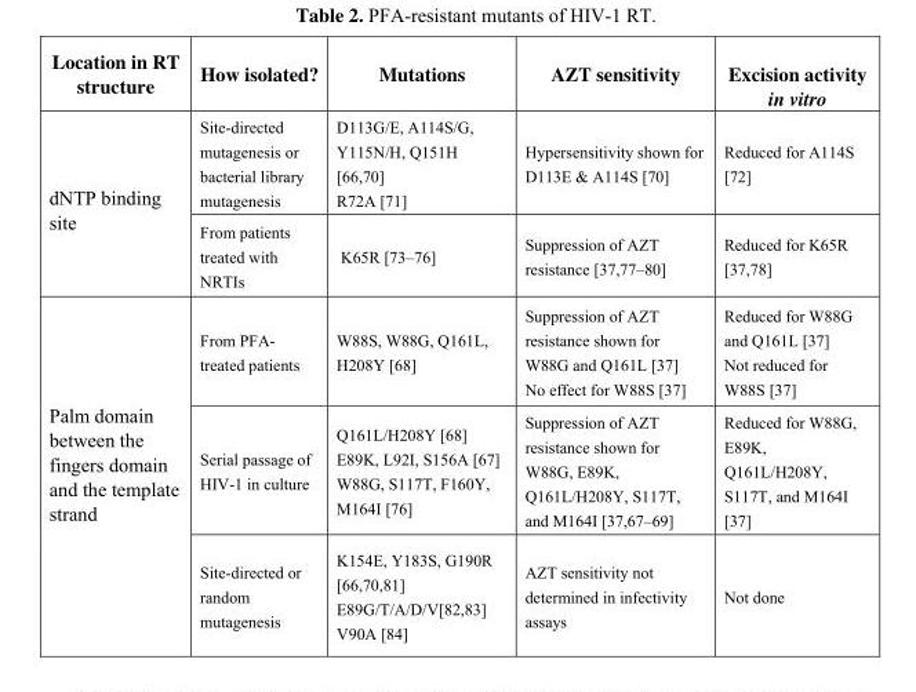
<table><thead><tr><td>Location in RT structure</td><td>How isolated?</td><td>Mutations</td><td>AZT sensitivity</td><td>Excision activity in vitro</td></tr></thead><tbody><tr><td rowspan="2">dNTP binding site</td><td>Site-directed mutagenesis or bacterial library mutagenesis</td><td>D113G/E, A114S/G, Y115N/H, Q151H [66,70] R72A [71]</td><td>Hypersensitivity shown for D113E &amp; A114S [70]</td><td>Reduced for A114S [72]</td></tr><tr><td>From patients treated with NRTIs</td><td>K65R [73–76]</td><td>Suppression of AZT resistance [37,77–80]</td><td>Reduced for K65R [37,78]</td></tr><tr><td rowspan="3">Palm domain between the fingers domain and the template strand</td><td>From PFA- treated patients</td><td>W88S, W88G, Q161L, H208Y [68]</td><td>Suppression of AZT resistance shown for W88G and Q161L [37] No effect for W88S [37]</td><td>Reduced for W88G and Q161L [37] Not reduced for W88S [37]</td></tr><tr><td>Serial passage of HIV-1 in culture</td><td>Q161L/H208Y [68] E89K, L92I, S156A [67] W88G, S117T, F160Y, M164I [76]</td><td>Suppression of AZT resistance shown for W88G, E89K, Q161L/H208Y, S117T, and M164I [37,67–69]</td><td>Reduced for W88G, E89K, Q161L/H208Y, S117T, and M164I [37]</td></tr><tr><td>Site-directed or random mutagenesis</td><td>K154E, Y183S, G190R [66,70,81] E89G/T/A/D/V[82,83] V90A [84]</td><td>AZT sensitivity not determined in infectivity assays</td><td>Not done</td></tr></tbody></table>